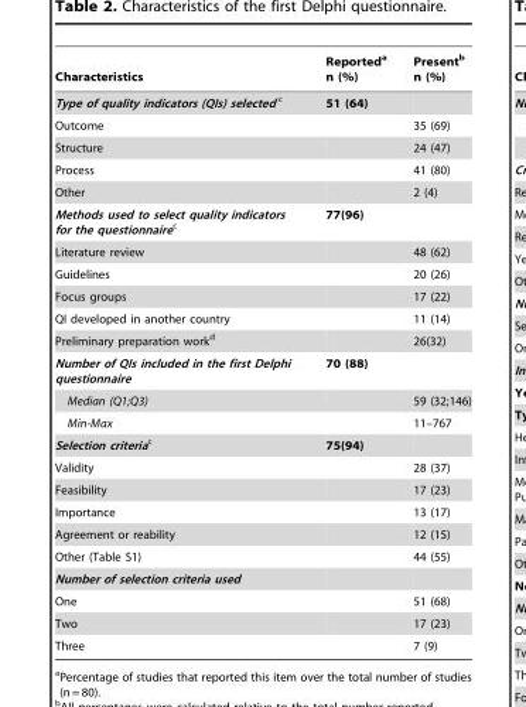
<table><thead><tr><td>Characteristics</td><td>Reported<sup>a</sup> n (%)</td><td>Present<sup>b</sup> n (%)</td></tr></thead><tbody><tr><td>Type of quality indicators (QIs) selected c</td><td>51 (64)</td><td></td></tr><tr><td>Outcome</td><td></td><td>35 (69)</td></tr><tr><td>Structure</td><td></td><td>24 (47)</td></tr><tr><td>Process</td><td></td><td>41 (80)</td></tr><tr><td>Other</td><td></td><td>2 (4)</td></tr><tr><td>Methods used to select quality indicators for the questionnairec</td><td>77(96)</td><td></td></tr><tr><td>Literature review</td><td></td><td>48 (62)</td></tr><tr><td>Guidelines</td><td></td><td>20 (26)</td></tr><tr><td>Focus groups</td><td></td><td>17 (22)</td></tr><tr><td>QI developed in another country</td><td></td><td>11 (14)</td></tr><tr><td>Preliminary preparation work<sup>d</sup></td><td></td><td>26(32)</td></tr><tr><td>Number of QIs included in the first Delphi questionnaire</td><td>70 (88)</td><td></td></tr><tr><td>Median (Q1;Q3)</td><td></td><td>59 (32;146)</td></tr><tr><td>Min-Max</td><td></td><td>11–767</td></tr><tr><td>Selection criteriac</td><td>75(94)</td><td></td></tr><tr><td>Validity</td><td></td><td>28 (37)</td></tr><tr><td>Feasibility</td><td></td><td>17 (23)</td></tr><tr><td>Importance</td><td></td><td>13 (17)</td></tr><tr><td>Agreement or reability</td><td></td><td>12 (15)</td></tr><tr><td>Other (Table S1)</td><td></td><td>44 (55)</td></tr><tr><td colspan="3">Number of selection criteria used</td></tr><tr><td>One</td><td></td><td>51 (68)</td></tr><tr><td>Two</td><td></td><td>17 (23)</td></tr><tr><td>Three</td><td></td><td>7 (9)</td></tr></tbody></table>